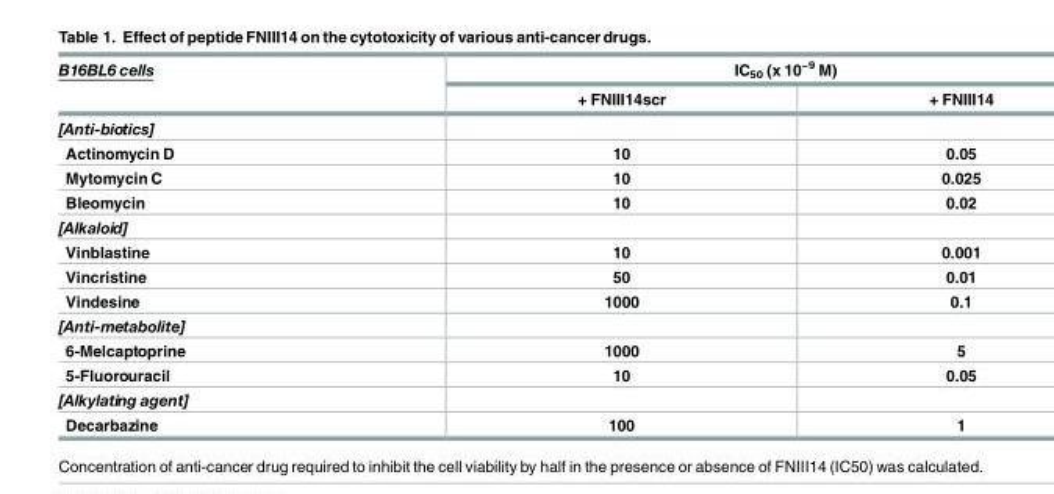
<table><thead><tr><td rowspan="2">B16BL6 cells</td><td colspan="2">IC<sub>50</sub> (x 10<sup>−9</sup> M)</td></tr><tr><td>+ FNIII14scr</td><td>+ FNIII14</td></tr></thead><tbody><tr><td colspan="3">[Anti-biotics]</td></tr><tr><td>Actinomycin D</td><td>10</td><td>0.05</td></tr><tr><td>Mytomycin C</td><td>10</td><td>0.025</td></tr><tr><td>Bleomycin</td><td>10</td><td>0.02</td></tr><tr><td colspan="3">[Alkaloid]</td></tr><tr><td>Vinblastine</td><td>10</td><td>0.001</td></tr><tr><td>Vincristine</td><td>50</td><td>0.01</td></tr><tr><td>Vindesine</td><td>1000</td><td>0.1</td></tr><tr><td colspan="3">[Anti-metabolite]</td></tr><tr><td>6-Melcaptoprine</td><td>1000</td><td>5</td></tr><tr><td>5-Fluorouracil</td><td>10</td><td>0.05</td></tr><tr><td colspan="3">[Alkylating agent]</td></tr><tr><td>Decarbazine</td><td>100</td><td>1</td></tr></tbody></table>